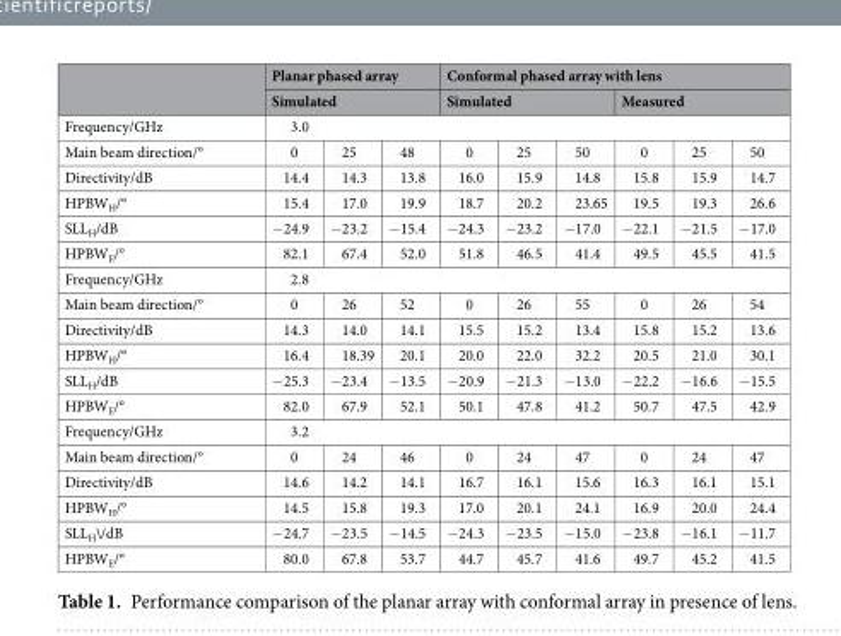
<table><thead><tr><td rowspan="4">Frequency/GHz Main beam direction/°</td><td rowspan="2" colspan="3">Planar phased array Simulated</td><td colspan="6">Conformal phased array with lens</td></tr><tr><td colspan="3">Simulated</td><td colspan="3">Measured</td></tr><tr><td colspan="9">3.0</td></tr><tr><td>0</td><td>25</td><td>48</td><td>0</td><td>25</td><td>50</td><td>0</td><td>25</td><td>50</td></tr></thead><tbody><tr><td>Directivity/dB</td><td>14.4</td><td>14.3</td><td>13.8</td><td>16.0</td><td>15.9</td><td>14.8</td><td>15.8</td><td>15.9</td><td>14.7</td></tr><tr><td>HPBW<sub>H</sub>/°</td><td>15.4</td><td>17.0</td><td>19.9</td><td>18.7</td><td>20.2</td><td>23.65</td><td>19.5</td><td>19.3</td><td>26.6</td></tr><tr><td>SLL<sub>H</sub>/dB</td><td>−24.9</td><td>−23.2</td><td>−15.4</td><td>−24.3</td><td>−23.2</td><td>−17.0</td><td>−22.1</td><td>−21.5</td><td>−17.0</td></tr><tr><td>HPBW<sub>E</sub>/°</td><td>82.1</td><td>67.4</td><td>52.0</td><td>51.8</td><td>46.5</td><td>41.4</td><td>49.5</td><td>45.5</td><td>41.5</td></tr><tr><td>Frequency/GHz</td><td colspan="9">2.8</td></tr><tr><td>Main beam direction/°</td><td>0</td><td>26</td><td>52</td><td>0</td><td>26</td><td>55</td><td>0</td><td>26</td><td>54</td></tr><tr><td>Directivity/dB</td><td>14.3</td><td>14.0</td><td>14.1</td><td>15.5</td><td>15.2</td><td>13.4</td><td>15.8</td><td>15.2</td><td>13.6</td></tr><tr><td>HPBW<sub>H</sub>/°</td><td>16.4</td><td>18.39</td><td>20.1</td><td>20.0</td><td>22.0</td><td>32.2</td><td>20.5</td><td>21.0</td><td>30.1</td></tr><tr><td>SLL<sub>H</sub>/dB</td><td>−25.3</td><td>−23.4</td><td>−13.5</td><td>−20.9</td><td>−21.3</td><td>−13.0</td><td>−22.2</td><td>−16.6</td><td>−15.5</td></tr><tr><td>HPBW<sub>E</sub>/°</td><td>82.0</td><td>67.9</td><td>52.1</td><td>50.1</td><td>47.8</td><td>41.2</td><td>50.7</td><td>47.5</td><td>42.9</td></tr><tr><td>Frequency/GHz</td><td colspan="9">3.2</td></tr><tr><td>Main beam direction/°</td><td>0</td><td>24</td><td>46</td><td>0</td><td>24</td><td>47</td><td>0</td><td>24</td><td>47</td></tr><tr><td>Directivity/dB</td><td>14.6</td><td>14.2</td><td>14.1</td><td>16.7</td><td>16.1</td><td>15.6</td><td>16.3</td><td>16.1</td><td>15.1</td></tr><tr><td>HPBW<sub>H</sub>/°</td><td>14.5</td><td>15.8</td><td>19.3</td><td>17.0</td><td>20.1</td><td>24.1</td><td>16.9</td><td>20.0</td><td>24.4</td></tr><tr><td>SLL<sub>H</sub>\/dB</td><td>−24.7</td><td>−23.5</td><td>−14.5</td><td>−24.3</td><td>−23.5</td><td>−15.0</td><td>−23.8</td><td>−16.1</td><td>−11.7</td></tr><tr><td>HPBW<sub>E</sub>/°</td><td>80.0</td><td>67.8</td><td>53.7</td><td>44.7</td><td>45.7</td><td>41.6</td><td>49.7</td><td>45.2</td><td>41.5</td></tr></tbody></table>